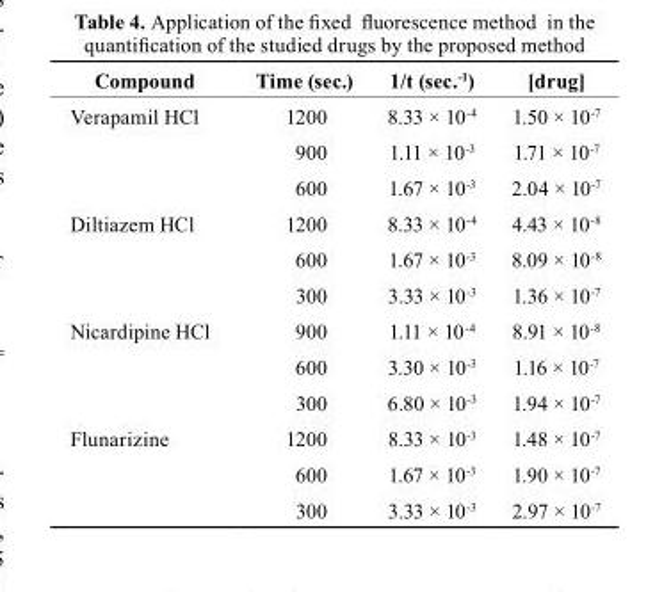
<table><thead><tr><td>Compound</td><td>Time (sec.)</td><td>1/t (sec.<sup>-1</sup>)</td><td>[drug]</td></tr></thead><tbody><tr><td rowspan="3">Verapamil HCl</td><td>1200</td><td>8.33 × 10<sup>-4</sup></td><td>1.50 × 10<sup>-7</sup></td></tr><tr><td>900</td><td>1.11 × 10<sup>-3</sup></td><td>1.71 × 10<sup>-7</sup></td></tr><tr><td>600</td><td>1.67 × 10<sup>-3</sup></td><td>2.04 × 10<sup>-7</sup></td></tr><tr><td rowspan="3">Diltiazem HCl</td><td>1200</td><td>8.33 × 10<sup>-4</sup></td><td>4.43 × 10<sup>-8</sup></td></tr><tr><td>600</td><td>1.67 × 10<sup>-3</sup></td><td>8.09 × 10<sup>-8</sup></td></tr><tr><td>300</td><td>3.33 × 10<sup>-3</sup></td><td>1.36 × 10<sup>-7</sup></td></tr><tr><td rowspan="3">Nicardipine HCl</td><td>900</td><td>1.11 × 10<sup>-4</sup></td><td>8.91 × 10<sup>-8</sup></td></tr><tr><td>600</td><td>3.30 × 10<sup>-3</sup></td><td>1.16 × 10<sup>-7</sup></td></tr><tr><td>300</td><td>6.80 × 10<sup>-3</sup></td><td>1.94 × 10<sup>-7</sup></td></tr><tr><td rowspan="3">Flunarizine</td><td>1200</td><td>8.33 × 10<sup>-3</sup></td><td>1.48 × 10<sup>-7</sup></td></tr><tr><td>600</td><td>1.67 × 10<sup>-3</sup></td><td>1.90 × 10<sup>-7</sup></td></tr><tr><td>300</td><td>3.33 × 10<sup>-3</sup></td><td>2.97 × 10<sup>-7</sup></td></tr></tbody></table>